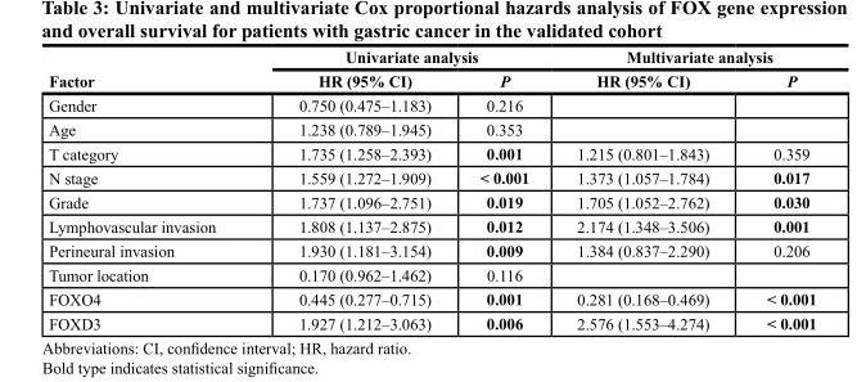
<table><thead><tr><td rowspan="2">Factor</td><td colspan="2">Univariate analysis</td><td colspan="2">Multivariate analysis</td></tr><tr><td>HR (95% CI)</td><td>P</td><td>HR (95% CI)</td><td>P</td></tr></thead><tbody><tr><td>Gender</td><td>0.750 (0.475–1.183)</td><td>0.216</td><td></td><td></td></tr><tr><td>Age</td><td>1.238 (0.789–1.945)</td><td>0.353</td><td></td><td></td></tr><tr><td>T category</td><td>1.735 (1.258–2.393)</td><td>0.001</td><td>1.215 (0.801–1.843)</td><td>0.359</td></tr><tr><td>N stage</td><td>1.559 (1.272–1.909)</td><td>&lt; 0.001</td><td>1.373 (1.057–1.784)</td><td>0.017</td></tr><tr><td>Grade</td><td>1.737 (1.096–2.751)</td><td>0.019</td><td>1.705 (1.052–2.762)</td><td>0.030</td></tr><tr><td>Lymphovascular invasion</td><td>1.808 (1.137–2.875)</td><td>0.012</td><td>2.174 (1.348–3.506)</td><td>0.001</td></tr><tr><td>Perineural invasion</td><td>1.930 (1.181–3.154)</td><td>0.009</td><td>1.384 (0.837–2.290)</td><td>0.206</td></tr><tr><td>Tumor location</td><td>0.170 (0.962–1.462)</td><td>0.116</td><td></td><td></td></tr><tr><td>FOXO4</td><td>0.445 (0.277–0.715)</td><td>0.001</td><td>0.281 (0.168–0.469)</td><td>&lt; 0.001</td></tr><tr><td>FOXD3</td><td>1.927 (1.212–3.063)</td><td>0.006</td><td>2.576 (1.553–4.274)</td><td>&lt; 0.001</td></tr></tbody></table>